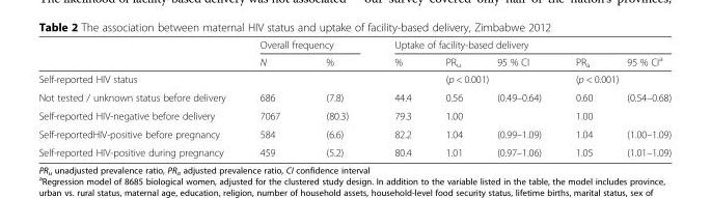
<table><thead><tr><td rowspan="2"></td><td colspan="2">Overall frequency</td><td colspan="5">Uptake of facility-based delivery</td></tr><tr><td>N</td><td>%</td><td>%</td><td>PR<sub>u</sub></td><td>95 % CI</td><td>PR<sub>a</sub></td><td>95 % CI<sup>a</sup></td></tr></thead><tbody><tr><td>Self-reported HIV status</td><td></td><td></td><td></td><td colspan="2">(p &lt; 0.001)</td><td colspan="2">(p &lt; 0.001)</td></tr><tr><td>Not tested / unknown status before delivery</td><td>686</td><td>(7.8)</td><td>44.4</td><td>0.56</td><td>(0.49–0.64)</td><td>0.60</td><td>(0.54–0.68)</td></tr><tr><td>Self-reported HIV-negative before delivery</td><td>7067</td><td>(80.3)</td><td>79.3</td><td>1.00</td><td></td><td>1.00</td><td></td></tr><tr><td>Self-reportedHIV-positive before pregnancy</td><td>584</td><td>(6.6)</td><td>82.2</td><td>1.04</td><td>(0.99–1.09)</td><td>1.04</td><td>(1.00–1.09)</td></tr><tr><td>Self-reported HIV-positive during pregnancy</td><td>459</td><td>(5.2)</td><td>80.4</td><td>1.01</td><td>(0.97–1.06)</td><td>1.05</td><td>(1.01–1.09)</td></tr></tbody></table>